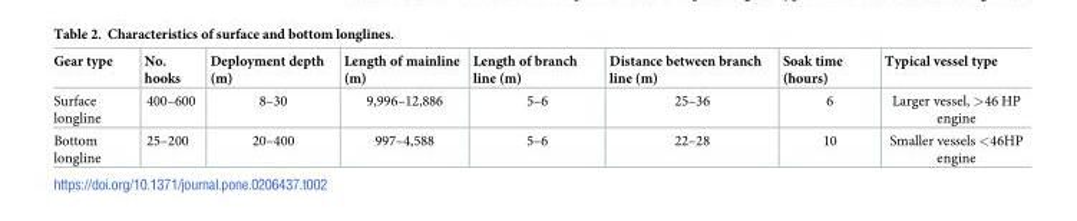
<table><thead><tr><td>Gear type</td><td>No. hooks</td><td>Deployment depth (m)</td><td>Length of mainline (m)</td><td>Length of branch line (m)</td><td>Distance between branch line (m)</td><td>Soak time (hours)</td><td>Typical vessel type</td></tr></thead><tbody><tr><td>Surface longline</td><td>400–600</td><td>8–30</td><td>9,996–12,886</td><td>5–6</td><td>25–36</td><td>6</td><td>Larger vessel, &gt;46 HP engine</td></tr><tr><td>Bottom longline</td><td>25–200</td><td>20–400</td><td>997–4,588</td><td>5–6</td><td>22–28</td><td>10</td><td>Smaller vessels &lt;46HP engine</td></tr></tbody></table>